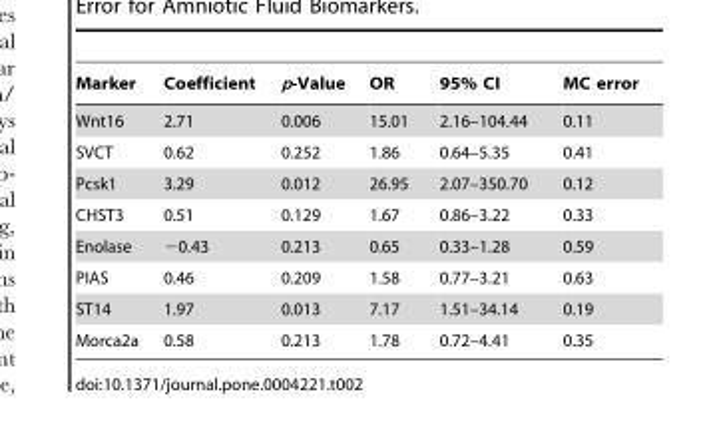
<table><thead><tr><td>Marker</td><td>Coefficient</td><td>p-Value</td><td>OR</td><td>95% CI</td><td>MC error</td></tr></thead><tbody><tr><td>Wnt16</td><td>2.71</td><td>0.006</td><td>15.01</td><td>2.16–104.44</td><td>0.11</td></tr><tr><td>SVCT</td><td>0.62</td><td>0.252</td><td>1.86</td><td>0.64–5.35</td><td>0.41</td></tr><tr><td>Pcsk1</td><td>3.29</td><td>0.012</td><td>26.95</td><td>2.07–350.70</td><td>0.12</td></tr><tr><td>CHST3</td><td>0.51</td><td>0.129</td><td>1.67</td><td>0.86–3.22</td><td>0.33</td></tr><tr><td>Enolase</td><td>−0.43</td><td>0.213</td><td>0.65</td><td>0.33–1.28</td><td>0.59</td></tr><tr><td>PIAS</td><td>0.46</td><td>0.209</td><td>1.58</td><td>0.77–3.21</td><td>0.63</td></tr><tr><td>ST14</td><td>1.97</td><td>0.013</td><td>7.17</td><td>1.51–34.14</td><td>0.19</td></tr><tr><td>Morca2a</td><td>0.58</td><td>0.213</td><td>1.78</td><td>0.72–4.41</td><td>0.35</td></tr></tbody></table>